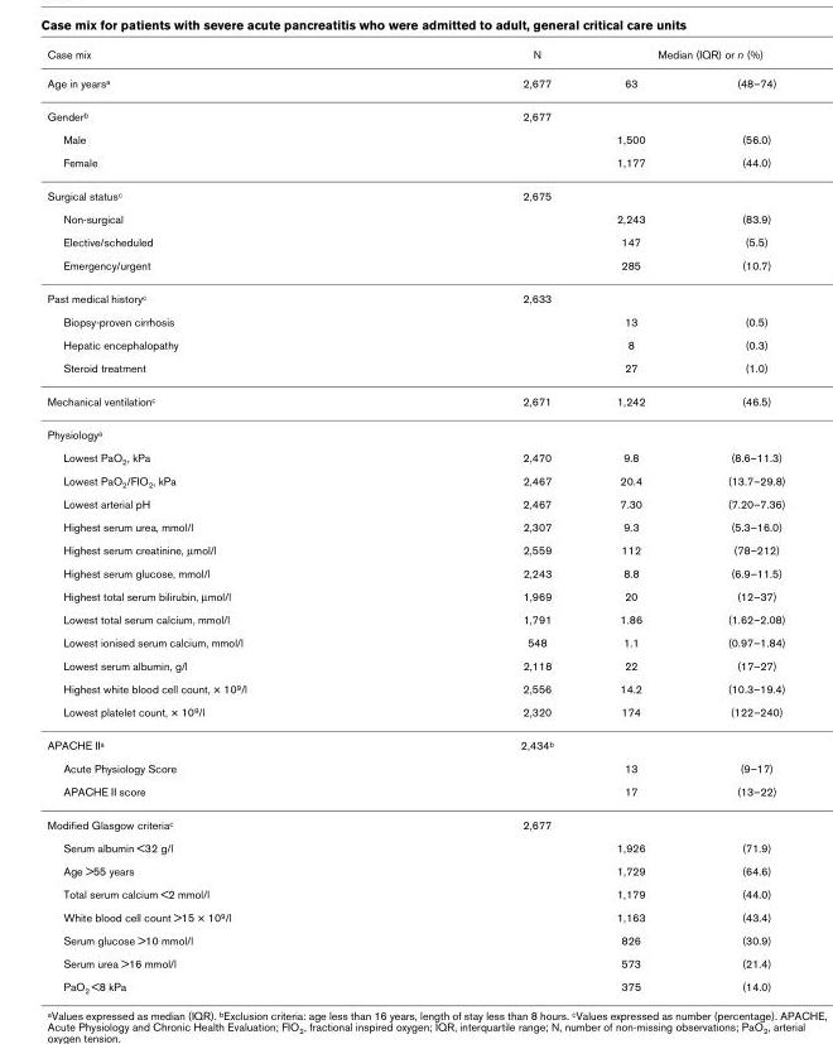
<table><thead><tr><td rowspan="2">Case mix Age in yearsa</td><td rowspan="2">N 2,677</td><td colspan="2">Median (IQR) or n (%)</td></tr><tr><td>63</td><td>(48–74)</td></tr></thead><tbody><tr><td>Gender<sup>b</sup></td><td>2,677</td><td></td><td></td></tr><tr><td>Male</td><td></td><td>1,500</td><td>(56.0)</td></tr><tr><td>Female</td><td></td><td>1,177</td><td>(44.0)</td></tr><tr><td>Surgical status<sup>c</sup></td><td>2,675</td><td></td><td></td></tr><tr><td>Non-surgical</td><td></td><td>2,243</td><td>(83.9)</td></tr><tr><td>Elective/scheduled</td><td></td><td>147</td><td>(5.5)</td></tr><tr><td>Emergency/urgent</td><td></td><td>285</td><td>(10.7)</td></tr><tr><td>Past medical history<sup>c</sup></td><td>2,633</td><td></td><td></td></tr><tr><td>Biopsy-proven cirrhosis</td><td></td><td>13</td><td>(0.5)</td></tr><tr><td>Hepatic encephalopathy</td><td></td><td>8</td><td>(0.3)</td></tr><tr><td>Steroid treatment</td><td></td><td>27</td><td>(1.0)</td></tr><tr><td>Mechanical ventilation<sup>c</sup></td><td>2,671</td><td>1,242</td><td>(46.5)</td></tr><tr><td colspan="4">Physiology<sup>a</sup></td></tr><tr><td>Lowest PaO<sub>2</sub>, kPa</td><td>2,470</td><td>9.8</td><td>(8.6–11.3)</td></tr><tr><td>Lowest PaO<sub>2</sub>/FIO<sub>2</sub>, kPa</td><td>2,467</td><td>20.4</td><td>(13.7–29.8)</td></tr><tr><td>Lowest arterial pH</td><td>2,467</td><td>7.30</td><td>(7.20–7.36)</td></tr><tr><td>Highest serum urea, mmol/l</td><td>2,307</td><td>9.3</td><td>(5.3–16.0)</td></tr><tr><td>Highest serum creatinine, μmol/l</td><td>2,559</td><td>112</td><td>(78–212)</td></tr><tr><td>Highest serum glucose, mmol/l</td><td>2,243</td><td>8.8</td><td>(6.9–11.5)</td></tr><tr><td>Highest total serum bilirubin, μmol/l</td><td>1,969</td><td>20</td><td>(12–37)</td></tr><tr><td>Lowest total serum calcium, mmol/l</td><td>1,791</td><td>1.86</td><td>(1.62–2.08)</td></tr><tr><td>Lowest ionised serum calcium, mmol/l</td><td>548</td><td>1.1</td><td>(0.97–1.84)</td></tr><tr><td>Lowest serum albumin, g/l</td><td>2,118</td><td>22</td><td>(17–27)</td></tr><tr><td>Highest white blood cell count, × 10<sup>9</sup>/l</td><td>2,556</td><td>14.2</td><td>(10.3–19.4)</td></tr><tr><td>Lowest platelet count, × 10<sup>9</sup>/l</td><td>2,320</td><td>174</td><td>(122–240)</td></tr><tr><td>APACHE II<sup>a</sup></td><td>2,434<sup>b</sup></td><td></td><td></td></tr><tr><td>Acute Physiology Score</td><td></td><td>13</td><td>(9–17)</td></tr><tr><td>APACHE II score</td><td></td><td>17</td><td>(13–22)</td></tr><tr><td>Modified Glasgow criteria<sup>c</sup></td><td>2,677</td><td></td><td></td></tr><tr><td>Serum albumin &lt;32 g/l</td><td></td><td>1,926</td><td>(71.9)</td></tr><tr><td>Age &gt;55 years</td><td></td><td>1,729</td><td>(64.6)</td></tr><tr><td>Total serum calcium &lt;2 mmol/l</td><td></td><td>1,179</td><td>(44.0)</td></tr><tr><td>White blood cell count &gt;15 × 10<sup>9</sup>/l</td><td></td><td>1,163</td><td>(43.4)</td></tr><tr><td>Serum glucose &gt;10 mmol/l</td><td></td><td>826</td><td>(30.9)</td></tr><tr><td>Serum urea &gt;16 mmol/l</td><td></td><td>573</td><td>(21.4)</td></tr><tr><td>PaO<sub>2</sub> &lt;8 kPa</td><td></td><td>375</td><td>(14.0)</td></tr></tbody></table>